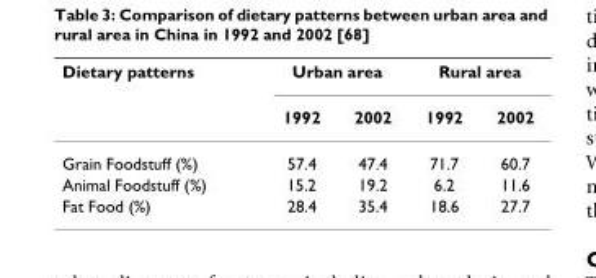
<table><thead><tr><td rowspan="2">Dietary patterns</td><td colspan="2">Urban area</td><td colspan="2">Rural area</td></tr><tr><td>1992</td><td>2002</td><td>1992</td><td>2002</td></tr></thead><tbody><tr><td>Grain Foodstuff (%)</td><td>57.4</td><td>47.4</td><td>71.7</td><td>60.7</td></tr><tr><td>Animal Foodstuff (%)</td><td>15.2</td><td>19.2</td><td>6.2</td><td>11.6</td></tr><tr><td>Fat Food (%)</td><td>28.4</td><td>35.4</td><td>18.6</td><td>27.7</td></tr></tbody></table>